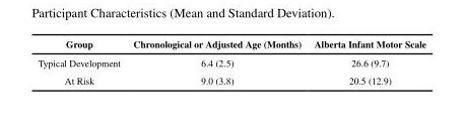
<table><thead><tr><td>Group</td><td>Chronological or Adjusted Age (Months)</td><td>Alberta Infant Motor Scale</td></tr></thead><tbody><tr><td>Typical Development</td><td>6.4 (2.5)</td><td>26.6 (9.7)</td></tr><tr><td>At Risk</td><td>9.0 (3.8)</td><td>20.5 (12.9)</td></tr></tbody></table>